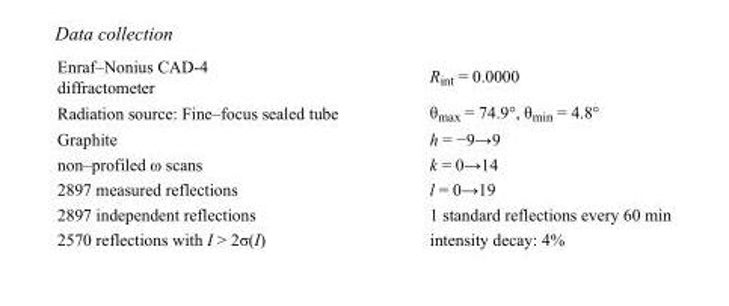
<table><tbody><tr><td>Enraf–Nonius CAD-4 diffractometer</td><td>R<sub>int</sub> = 0.0000</td></tr><tr><td>Radiation source: Fine–focus sealed tube</td><td>θ<sub>max</sub> = 74.9°, θ<sub>min</sub> = 4.8°</td></tr><tr><td>Graphite</td><td>h = −9→9</td></tr><tr><td>non–profiled ω scans</td><td>k = 0→14</td></tr><tr><td>2897 measured reflections</td><td>l = 0→19</td></tr><tr><td>2897 independent reflections</td><td>1 standard reflections every 60 min</td></tr><tr><td>2570 reflections with I &gt; 2σ(I)</td><td>intensity decay: 4%</td></tr></tbody></table>